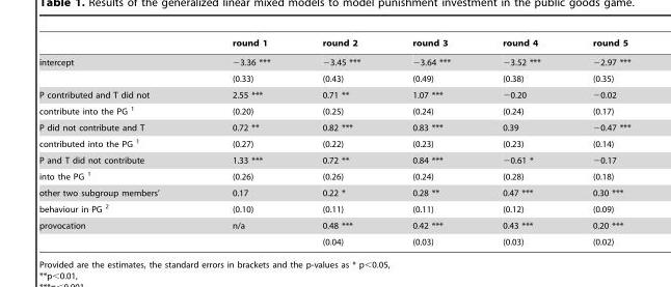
<table><thead><tr><td></td><td>round 1</td><td>round 2</td><td>round 3</td><td>round 4</td><td>round 5</td></tr></thead><tbody><tr><td rowspan="2">intercept</td><td>−3.36 ***</td><td>−3.45 ***</td><td>−3.64 ***</td><td>−3.52 ***</td><td>−2.97 ***</td></tr><tr><td>(0.33)</td><td>(0.43)</td><td>(0.49)</td><td>(0.38)</td><td>(0.35)</td></tr><tr><td>P contributed and T did not</td><td>2.55 ***</td><td>0.71 **</td><td>1.07 ***</td><td>−0.20</td><td>−0.02</td></tr><tr><td>contribute into the PG 1</td><td>(0.20)</td><td>(0.25)</td><td>(0.24)</td><td>(0.24)</td><td>(0.17)</td></tr><tr><td>P did not contribute and T</td><td>0.72 **</td><td>0.82 ***</td><td>0.83 ***</td><td>0.39</td><td>−0.47 ***</td></tr><tr><td>contributed into the PG 1</td><td>(0.27)</td><td>(0.22)</td><td>(0.23)</td><td>(0.23)</td><td>(0.14)</td></tr><tr><td>P and T did not contribute</td><td>1.33 ***</td><td>0.72 **</td><td>0.84 ***</td><td>−0.61 *</td><td>−0.17</td></tr><tr><td>into the PG 1</td><td>(0.26)</td><td>(0.26)</td><td>(0.24)</td><td>(0.28)</td><td>(0.18)</td></tr><tr><td>other two subgroup members’</td><td>0.17</td><td>0.22 *</td><td>0.28 **</td><td>0.47 ***</td><td>0.30 ***</td></tr><tr><td>behaviour in PG 2</td><td>(0.10)</td><td>(0.11)</td><td>(0.11)</td><td>(0.12)</td><td>(0.09)</td></tr><tr><td rowspan="2">provocation</td><td>n/a</td><td>0.48 ***</td><td>0.42 ***</td><td>0.43 ***</td><td>0.20 ***</td></tr><tr><td></td><td>(0.04)</td><td>(0.03)</td><td>(0.03)</td><td>(0.02)</td></tr></tbody></table>